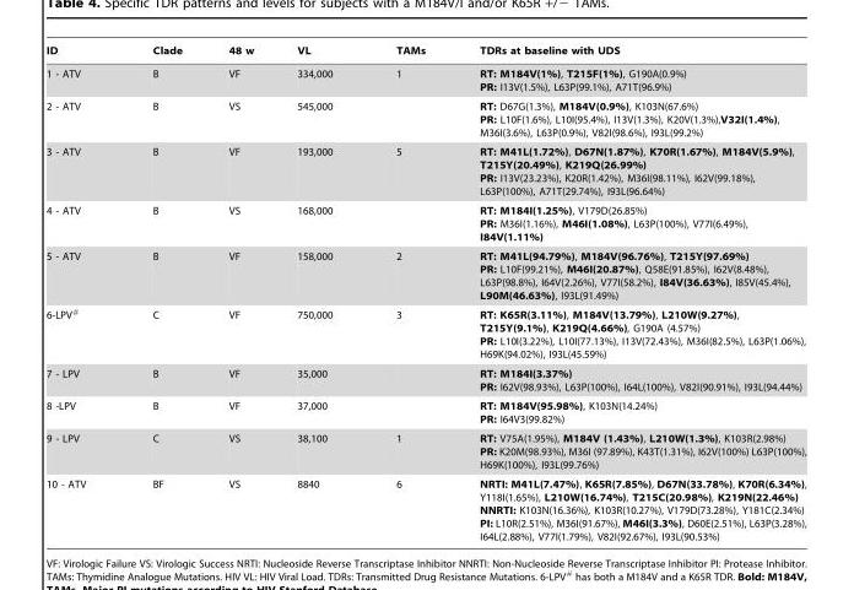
<table><thead><tr><td>ID</td><td>Clade</td><td>48 w</td><td>VL</td><td>TAMs</td><td>TDRs at baseline with UDS</td></tr></thead><tbody><tr><td>1 - ATV</td><td>B</td><td>VF</td><td>334,000</td><td>1</td><td>RT: M184V(1%), T215F(1%), G190A(0.9%) PR: I13V(1.5%), L63P(99.1%), A71T(96.9%)</td></tr><tr><td>2 - ATV</td><td>B</td><td>VS</td><td>545,000</td><td></td><td>RT: D67G(1.3%), M184V(0.9%), K103N(67.6%) PR: L10F(1.6%), L10I(95.4%), I13V(1.3%), K20V(1.3%),V32I(1.4%), M36I(3.6%), L63P(0.9%), V82I(98.6%), I93L(99.2%)</td></tr><tr><td>3 - ATV</td><td>B</td><td>VF</td><td>193,000</td><td>5</td><td>RT: M41L(1.72%), D67N(1.87%), K70R(1.67%), M184V(5.9%), T215Y(20.49%), K219Q(26.99%) PR: I13V(23.23%), K20R(1.42%), M36I(98.11%), I62V(99.18%), L63P(100%), A71T(29.74%), I93L(96.64%)</td></tr><tr><td>4 - ATV</td><td>B</td><td>VS</td><td>168,000</td><td></td><td>RT: M184I(1.25%), V179D(26.85%) PR: M36I(1.16%), M46I(1.08%), L63P(100%), V77I(6.49%), I84V(1.11%)</td></tr><tr><td>5 - ATV</td><td>B</td><td>VF</td><td>158,000</td><td>2</td><td>RT: M41L(94.79%), M184V(96.76%), T215Y(97.69%) PR: L10F(99.21%), M46I(20.87%), Q58E(91.85%), I62V(8.48%), L63P(98.8%), I64V(2.26%), V77I(58.2%), I84V(36.63%), I85V(45.4%), L90M(46.63%), I93L(91.49%)</td></tr><tr><td>6-LPV<sup>#</sup></td><td>C</td><td>VF</td><td>750,000</td><td>3</td><td>RT: K65R(3.11%), M184V(13.79%), L210W(9.27%), T215Y(9.1%), K219Q(4.66%), G190A (4.57%) PR: L10I(3.22%), L10I(77.13%), I13V(72.43%), M36I(82.5%), L63P(1.06%), H69K(94.02%), I93L(45.59%)</td></tr><tr><td>7 - LPV</td><td>B</td><td>VF</td><td>35,000</td><td></td><td>RT: M184I(3.37%) PR: I62V(98.93%), L63P(100%), I64L(100%), V82I(90.91%), I93L(94.44%)</td></tr><tr><td>8 -LPV</td><td>B</td><td>VF</td><td>37,000</td><td></td><td>RT: M184V(95.98%), K103N(14.24%) PR: I64V3(99.82%)</td></tr><tr><td>9 - LPV</td><td>C</td><td>VS</td><td>38,100</td><td>1</td><td>RT: V75A(1.95%), M184V (1.43%), L210W(1.3%), K103R(2.98%) PR: K20M(98.93%), M36I (97.89%), K43T(1.31%), I62V(100%) L63P(100%), H69K(100%), I93L(99.76%)</td></tr><tr><td>10 - ATV</td><td>BF</td><td>VS</td><td>8840</td><td>6</td><td>NRTI: M41L(7.47%), K65R(7.85%), D67N(33.78%), K70R(6.34%), Y118I(1.65%), L210W(16.74%), T215C(20.98%), K219N(22.46%) NNRTI: K103N(16.36%), K103R(10.27%), V179D(73.28%), Y181C(2.34%) PI: L10R(2.51%), M36I(91.67%), M46I(3.3%), D60E(2.51%), L63P(3.28%), I64L(2.88%), V77I(1.79%), V82I(92.67%), I93L(90.53%)</td></tr></tbody></table>